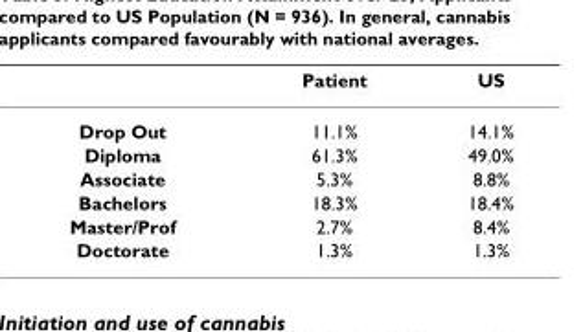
<table><thead><tr><td></td><td>Patient</td><td>US</td></tr></thead><tbody><tr><td>Drop Out</td><td>11.1%</td><td>14.1%</td></tr><tr><td>Diploma</td><td>61.3%</td><td>49.0%</td></tr><tr><td>Associate</td><td>5.3%</td><td>8.8%</td></tr><tr><td>Bachelors</td><td>18.3%</td><td>18.4%</td></tr><tr><td>Master/Prof</td><td>2.7%</td><td>8.4%</td></tr><tr><td>Doctorate</td><td>1.3%</td><td>1.3%</td></tr></tbody></table>